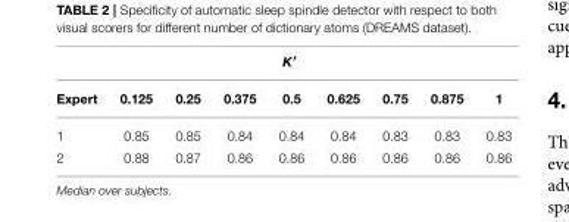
<table><thead><tr><td colspan="9">K′</td></tr><tr><td>Expert</td><td>0.125</td><td>0.25</td><td>0.375</td><td>0.5</td><td>0.625</td><td>0.75</td><td>0.875</td><td>1</td></tr></thead><tbody><tr><td>1</td><td>0.85</td><td>0.85</td><td>0.84</td><td>0.84</td><td>0.84</td><td>0.83</td><td>0.83</td><td>0.83</td></tr><tr><td>2</td><td>0.88</td><td>0.87</td><td>0.86</td><td>0.86</td><td>0.86</td><td>0.86</td><td>0.86</td><td>0.86</td></tr></tbody></table>